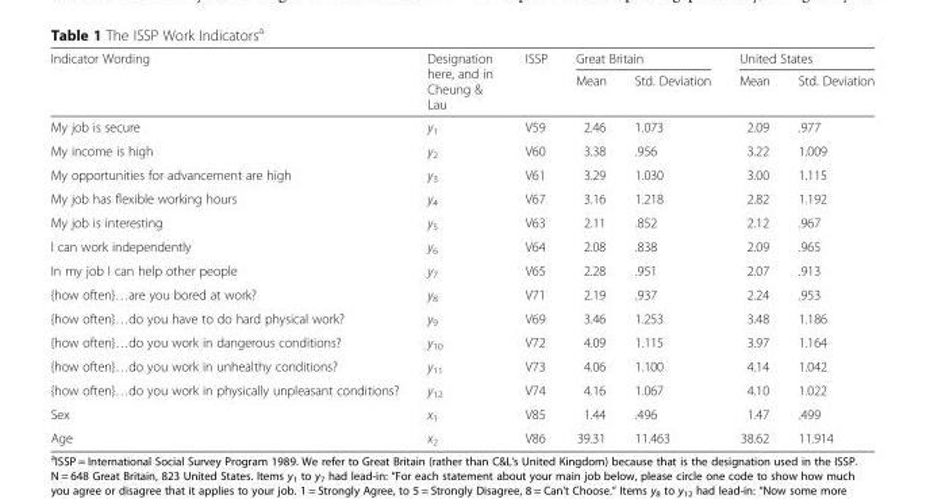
<table><thead><tr><td rowspan="2">Indicator Wording</td><td rowspan="2">Designation here, and in Cheung &amp; Lau</td><td rowspan="2">ISSP</td><td colspan="2">Great Britain</td><td colspan="2">United States</td></tr><tr><td>Mean</td><td>Std. Deviation</td><td>Mean</td><td>Std. Deviation</td></tr></thead><tbody><tr><td>My job is secure</td><td>y<sub>1</sub></td><td>V59</td><td>2.46</td><td>1.073</td><td>2.09</td><td>.977</td></tr><tr><td>My income is high</td><td>y<sub>2</sub></td><td>V60</td><td>3.38</td><td>.956</td><td>3.22</td><td>1.009</td></tr><tr><td>My opportunities for advancement are high</td><td>y<sub>3</sub></td><td>V61</td><td>3.29</td><td>1.030</td><td>3.00</td><td>1.115</td></tr><tr><td>My job has flexible working hours</td><td>y<sub>4</sub></td><td>V67</td><td>3.16</td><td>1.218</td><td>2.82</td><td>1.192</td></tr><tr><td>My job is interesting</td><td>y<sub>5</sub></td><td>V63</td><td>2.11</td><td>.852</td><td>2.12</td><td>.967</td></tr><tr><td>I can work independently</td><td>y<sub>6</sub></td><td>V64</td><td>2.08</td><td>.838</td><td>2.09</td><td>.965</td></tr><tr><td>In my job I can help other people</td><td>y<sub>7</sub></td><td>V65</td><td>2.28</td><td>.951</td><td>2.07</td><td>.913</td></tr><tr><td>{how often}…are you bored at work?</td><td>y<sub>8</sub></td><td>V71</td><td>2.19</td><td>.937</td><td>2.24</td><td>.953</td></tr><tr><td>{how often}…do you have to do hard physical work?</td><td>y<sub>9</sub></td><td>V69</td><td>3.46</td><td>1.253</td><td>3.48</td><td>1.186</td></tr><tr><td>{how often}…do you work in dangerous conditions?</td><td>y<sub>10</sub></td><td>V72</td><td>4.09</td><td>1.115</td><td>3.97</td><td>1.164</td></tr><tr><td>{how often}…do you work in unhealthy conditions?</td><td>y<sub>11</sub></td><td>V73</td><td>4.06</td><td>1.100</td><td>4.14</td><td>1.042</td></tr><tr><td>{how often}…do you work in physically unpleasant conditions?</td><td>y<sub>12</sub></td><td>V74</td><td>4.16</td><td>1.067</td><td>4.10</td><td>1.022</td></tr><tr><td>Sex</td><td>x<sub>1</sub></td><td>V85</td><td>1.44</td><td>.496</td><td>1.47</td><td>.499</td></tr><tr><td>Age</td><td>x<sub>2</sub></td><td>V86</td><td>39.31</td><td>11.463</td><td>38.62</td><td>11.914</td></tr></tbody></table>